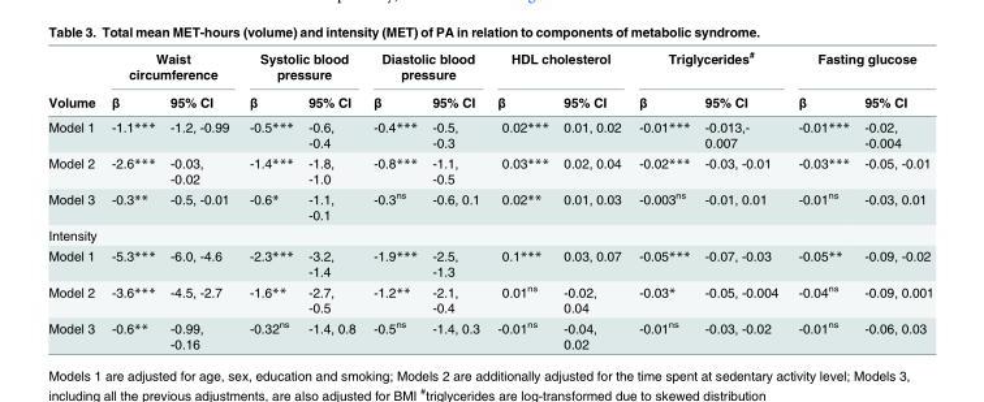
<table><thead><tr><td rowspan="2">Volume</td><td colspan="2">Waist circumference</td><td colspan="2">Systolic blood pressure</td><td colspan="2">Diastolic blood pressure</td><td colspan="2">HDL cholesterol</td><td colspan="2">Triglycerides<sup>#</sup></td><td colspan="2">Fasting glucose</td></tr><tr><td>β</td><td>95% CI</td><td>β</td><td>95% CI</td><td>β</td><td>95% CI</td><td>β</td><td>95% CI</td><td>β</td><td>95% CI</td><td>β</td><td>95% CI</td></tr></thead><tbody><tr><td>Model 1</td><td>-1.1***</td><td>-1.2, -0.99</td><td>-0.5***</td><td>-0.6, -0.4</td><td>-0.4***</td><td>-0.5, -0.3</td><td>0.02***</td><td>0.01, 0.02</td><td>-0.01***</td><td>-0.013,- 0.007</td><td>-0.01***</td><td>-0.02, -0.004</td></tr><tr><td>Model 2</td><td>-2.6***</td><td>-0.03, -0.02</td><td>-1.4***</td><td>-1.8, -1.0</td><td>-0.8***</td><td>-1.1, -0.5</td><td>0.03***</td><td>0.02, 0.04</td><td>-0.02***</td><td>-0.03, -0.01</td><td>-0.03***</td><td>-0.05, -0.01</td></tr><tr><td>Model 3</td><td>-0.3**</td><td>-0.5, -0.01</td><td>-0.6*</td><td>-1.1, -0.1</td><td>-0.3<sup>ns</sup></td><td>-0.6, 0.1</td><td>0.02**</td><td>0.01, 0.03</td><td>-0.003<sup>ns</sup></td><td>-0.01, 0.01</td><td>-0.01<sup>ns</sup></td><td>-0.03, 0.01</td></tr><tr><td colspan="13">Intensity</td></tr><tr><td>Model 1</td><td>-5.3***</td><td>-6.0, -4.6</td><td>-2.3***</td><td>-3.2, -1.4</td><td>-1.9***</td><td>-2.5, -1.3</td><td>0.1***</td><td>0.03, 0.07</td><td>-0.05***</td><td>-0.07, -0.03</td><td>-0.05**</td><td>-0.09, -0.02</td></tr><tr><td>Model 2</td><td>-3.6***</td><td>-4.5, -2.7</td><td>-1.6**</td><td>-2.7, -0.5</td><td>-1.2**</td><td>-2.1, -0.4</td><td>0.01<sup>ns</sup></td><td>-0.02, 0.04</td><td>-0.03*</td><td>-0.05, -0.004</td><td>-0.04<sup>ns</sup></td><td>-0.09, 0.001</td></tr><tr><td>Model 3</td><td>-0.6**</td><td>-0.99, -0.16</td><td>-0.32<sup>ns</sup></td><td>-1.4, 0.8</td><td>-0.5<sup>ns</sup></td><td>-1.4, 0.3</td><td>-0.01<sup>ns</sup></td><td>-0.04, 0.02</td><td>-0.01<sup>ns</sup></td><td>-0.03, -0.02</td><td>-0.01<sup>ns</sup></td><td>-0.06, 0.03</td></tr></tbody></table>